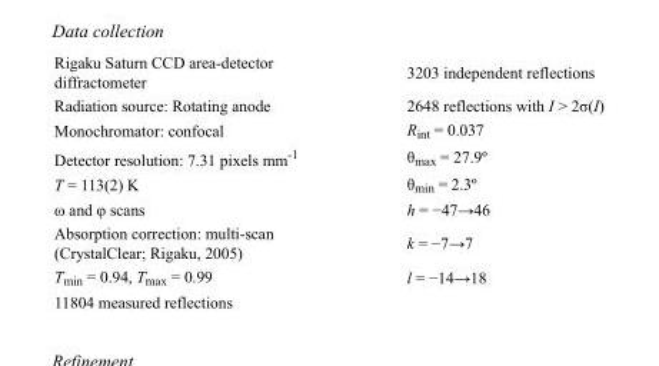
<table><tbody><tr><td>Rigaku Saturn CCD area-detector diffractometer</td><td>3203 independent reflections</td></tr><tr><td>Radiation source: Rotating anode</td><td>2648 reflections with I &gt; 2σ(I)</td></tr><tr><td>Monochromator: confocal</td><td>R<sub>int</sub> = 0.037</td></tr><tr><td>Detector resolution: 7.31 pixels mm<sup>-1</sup></td><td>θ<sub>max</sub> = 27.9º</td></tr><tr><td>T = 113(2) K</td><td>θ<sub>min</sub> = 2.3º</td></tr><tr><td>ω and φ scans</td><td>h = −47→46</td></tr><tr><td>Absorption correction: multi-scan (CrystalClear; Rigaku, 2005)</td><td>k = −7→7</td></tr><tr><td>T<sub>min</sub> = 0.94, T<sub>max</sub> = 0.99</td><td>l = −14→18</td></tr><tr><td>11804 measured reflections</td><td></td></tr></tbody></table>